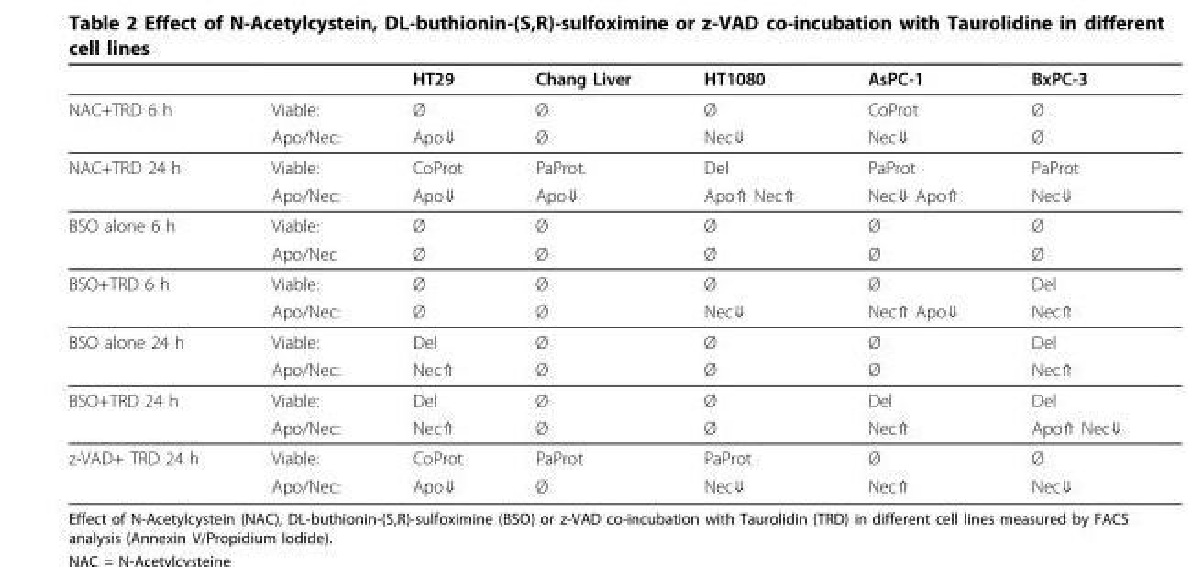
<table><thead><tr><td></td><td></td><td>HT29</td><td>Chang Liver</td><td>HT1080</td><td>AsPC-1</td><td>BxPC-3</td></tr></thead><tbody><tr><td rowspan="2">NAC+TRD 6 h</td><td>Viable:</td><td>Ø</td><td>Ø</td><td>Ø</td><td>CoProt</td><td>Ø</td></tr><tr><td>Apo/Nec:</td><td>Apo⇓</td><td>Ø</td><td>Nec⇓</td><td>Nec⇓</td><td>Ø</td></tr><tr><td rowspan="2">NAC+TRD 24 h</td><td>Viable:</td><td>CoProt</td><td>PaProt.</td><td>Del</td><td>PaProt</td><td>PaProt</td></tr><tr><td>Apo/Nec:</td><td>Apo⇓</td><td>Apo⇓</td><td>Apo⇑ Nec⇑</td><td>Nec⇓ Apo⇑</td><td>Nec⇓</td></tr><tr><td rowspan="2">BSO alone 6 h</td><td>Viable:</td><td>Ø</td><td>Ø</td><td>Ø</td><td>Ø</td><td>Ø</td></tr><tr><td>Apo/Nec</td><td>Ø</td><td>Ø</td><td>Ø</td><td>Ø</td><td>Ø</td></tr><tr><td rowspan="2">BSO+TRD 6 h</td><td>Viable:</td><td>Ø</td><td>Ø</td><td>Ø</td><td>Ø</td><td>Del</td></tr><tr><td>Apo/Nec:</td><td>Ø</td><td>Ø</td><td>Nec⇓</td><td>Nec⇑ Apo⇓</td><td>Nec⇑</td></tr><tr><td rowspan="2">BSO alone 24 h</td><td>Viable:</td><td>Del</td><td>Ø</td><td>Ø</td><td>Ø</td><td>Del</td></tr><tr><td>Apo/Nec:</td><td>Nec⇑</td><td>Ø</td><td>Ø</td><td>Ø</td><td>Nec⇑</td></tr><tr><td rowspan="2">BSO+TRD 24 h</td><td>Viable:</td><td>Del</td><td>Ø</td><td>Ø</td><td>Del</td><td>Del</td></tr><tr><td>Apo/Nec:</td><td>Nec⇑</td><td>Ø</td><td>Ø</td><td>Nec⇑</td><td>Apo⇑ Nec⇓</td></tr><tr><td rowspan="2">z-VAD+ TRD 24 h</td><td>Viable:</td><td>CoProt</td><td>PaProt</td><td>PaProt</td><td>Ø</td><td>Ø</td></tr><tr><td>Apo/Nec:</td><td>Apo⇓</td><td>Ø</td><td>Nec⇓</td><td>Nec⇑</td><td>Nec⇓</td></tr></tbody></table>